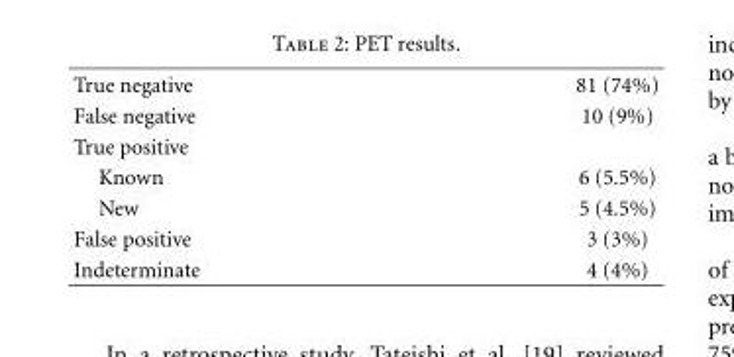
<table><tbody><tr><td>True negative</td><td>81 (74%)</td></tr><tr><td>False negative</td><td>10 (9%)</td></tr><tr><td colspan="2">True positive</td></tr><tr><td>Known</td><td>6 (5.5%)</td></tr><tr><td>New</td><td>5 (4.5%)</td></tr><tr><td>False positive</td><td>3 (3%)</td></tr><tr><td>Indeterminate</td><td>4 (4%)</td></tr></tbody></table>